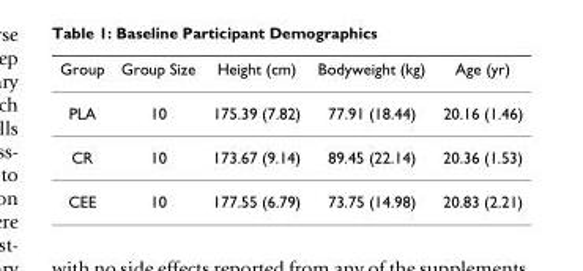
<table><thead><tr><td>Group</td><td>Group Size</td><td>Height (cm)</td><td>Bodyweight (kg)</td><td>Age (yr)</td></tr></thead><tbody><tr><td>PLA</td><td>10</td><td>175.39 (7.82)</td><td>77.91 (18.44)</td><td>20.16 (1.46)</td></tr><tr><td>CR</td><td>10</td><td>173.67 (9.14)</td><td>89.45 (22.14)</td><td>20.36 (1.53)</td></tr><tr><td>CEE</td><td>10</td><td>177.55 (6.79)</td><td>73.75 (14.98)</td><td>20.83 (2.21)</td></tr></tbody></table>